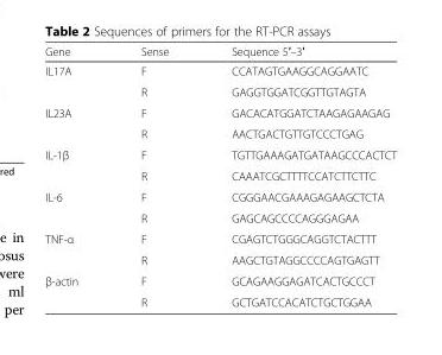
<table><thead><tr><td>Gene</td><td>Sense</td><td>Sequence 5′–3′</td></tr></thead><tbody><tr><td rowspan="2">IL17A</td><td>F</td><td>CCATAGTGAAGGCAGGAATC</td></tr><tr><td>R</td><td>GAGGTGGATCGGTTGTAGTA</td></tr><tr><td rowspan="2">IL23A</td><td>F</td><td>GACACATGGATCTAAGAGAAGAG</td></tr><tr><td>R</td><td>AACTGACTGTTGTCCCTGAG</td></tr><tr><td rowspan="2">IL-1β</td><td>F</td><td>TGTTGAAAGATGATAAGCCCACTCT</td></tr><tr><td>R</td><td>CAAATCGCTTTTCCATCTTCTTC</td></tr><tr><td rowspan="2">IL-6</td><td>F</td><td>CGGGAACGAAAGAGAAGCTCTA</td></tr><tr><td>R</td><td>GAGCAGCCCCAGGGAGAA</td></tr><tr><td rowspan="2">TNF-α</td><td>F</td><td>CGAGTCTGGGCAGGTCTACTTT</td></tr><tr><td>R</td><td>AAGCTGTAGGCCCCAGTGAGTT</td></tr><tr><td rowspan="2">β-actin</td><td>F</td><td>GCAGAAGGAGATCACTGCCCT</td></tr><tr><td>R</td><td>GCTGATCCACATCTGCTGGAA</td></tr></tbody></table>